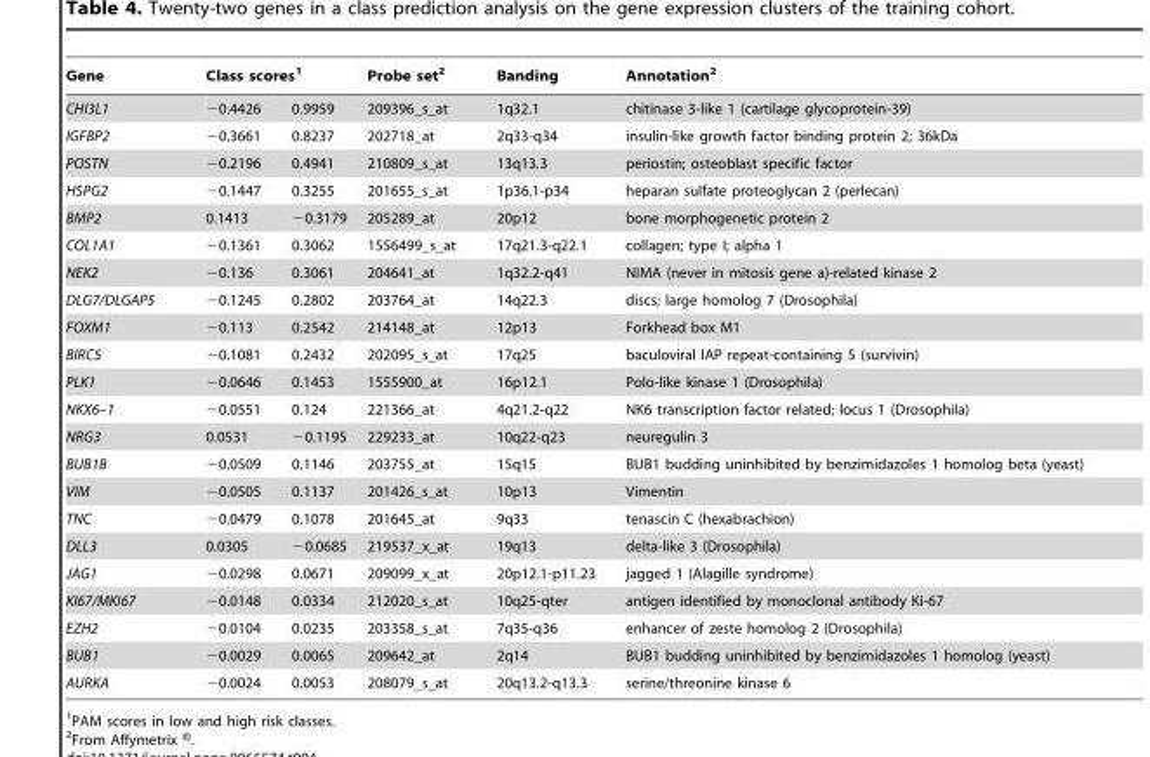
<table><thead><tr><td rowspan="2">Gene CHI3L1</td><td colspan="2">Class scores<sup>1</sup></td><td rowspan="2">Probe set<sup>2</sup> 209396_s_at</td><td rowspan="2">Banding 1q32.1</td><td rowspan="2">Annotation<sup>2</sup> chitinase 3-like 1 (cartilage glycoprotein-39)</td></tr><tr><td>−0.4426</td><td>0.9959</td></tr></thead><tbody><tr><td>IGFBP2</td><td>−0.3661</td><td>0.8237</td><td>202718_at</td><td>2q33-q34</td><td>insulin-like growth factor binding protein 2; 36kDa</td></tr><tr><td>POSTN</td><td>−0.2196</td><td>0.4941</td><td>210809_s_at</td><td>13q13.3</td><td>periostin; osteoblast specific factor</td></tr><tr><td>HSPG2</td><td>−0.1447</td><td>0.3255</td><td>201655_s_at</td><td>1p36.1-p34</td><td>heparan sulfate proteoglycan 2 (perlecan)</td></tr><tr><td>BMP2</td><td>0.1413</td><td>−0.3179</td><td>205289_at</td><td>20p12</td><td>bone morphogenetic protein 2</td></tr><tr><td>COL1A1</td><td>−0.1361</td><td>0.3062</td><td>1556499_s_at</td><td>17q21.3-q22.1</td><td>collagen; type I; alpha 1</td></tr><tr><td>NEK2</td><td>−0.136</td><td>0.3061</td><td>204641_at</td><td>1q32.2-q41</td><td>NIMA (never in mitosis gene a)-related kinase 2</td></tr><tr><td>DLG7/DLGAP5</td><td>−0.1245</td><td>0.2802</td><td>203764_at</td><td>14q22.3</td><td>discs; large homolog 7 (Drosophila)</td></tr><tr><td>FOXM1</td><td>−0.113</td><td>0.2542</td><td>214148_at</td><td>12p13</td><td>Forkhead box M1</td></tr><tr><td>BIRC5</td><td>−0.1081</td><td>0.2432</td><td>202095_s_at</td><td>17q25</td><td>baculoviral IAP repeat-containing 5 (survivin)</td></tr><tr><td>PLK1</td><td>−0.0646</td><td>0.1453</td><td>1555900_at</td><td>16p12.1</td><td>Polo-like kinase 1 (Drosophila)</td></tr><tr><td>NKX6–1</td><td>−0.0551</td><td>0.124</td><td>221366_at</td><td>4q21.2-q22</td><td>NK6 transcription factor related; locus 1 (Drosophila)</td></tr><tr><td>NRG3</td><td>0.0531</td><td>−0.1195</td><td>229233_at</td><td>10q22-q23</td><td>neuregulin 3</td></tr><tr><td>BUB1B</td><td>−0.0509</td><td>0.1146</td><td>203755_at</td><td>15q15</td><td>BUB1 budding uninhibited by benzimidazoles 1 homolog beta (yeast)</td></tr><tr><td>VIM</td><td>−0.0505</td><td>0.1137</td><td>201426_s_at</td><td>10p13</td><td>Vimentin</td></tr><tr><td>TNC</td><td>−0.0479</td><td>0.1078</td><td>201645_at</td><td>9q33</td><td>tenascin C (hexabrachion)</td></tr><tr><td>DLL3</td><td>0.0305</td><td>−0.0685</td><td>219537_x_at</td><td>19q13</td><td>delta-like 3 (Drosophila)</td></tr><tr><td>JAG1</td><td>−0.0298</td><td>0.0671</td><td>209099_x_at</td><td>20p12.1-p11.23</td><td>jagged 1 (Alagille syndrome)</td></tr><tr><td>KI67/MKI67</td><td>−0.0148</td><td>0.0334</td><td>212020_s_at</td><td>10q25-qter</td><td>antigen identified by monoclonal antibody Ki-67</td></tr><tr><td>EZH2</td><td>−0.0104</td><td>0.0235</td><td>203358_s_at</td><td>7q35-q36</td><td>enhancer of zeste homolog 2 (Drosophila)</td></tr><tr><td>BUB1</td><td>−0.0029</td><td>0.0065</td><td>209642_at</td><td>2q14</td><td>BUB1 budding uninhibited by benzimidazoles 1 homolog (yeast)</td></tr><tr><td>AURKA</td><td>−0.0024</td><td>0.0053</td><td>208079_s_at</td><td>20q13.2-q13.3</td><td>serine/threonine kinase 6</td></tr></tbody></table>